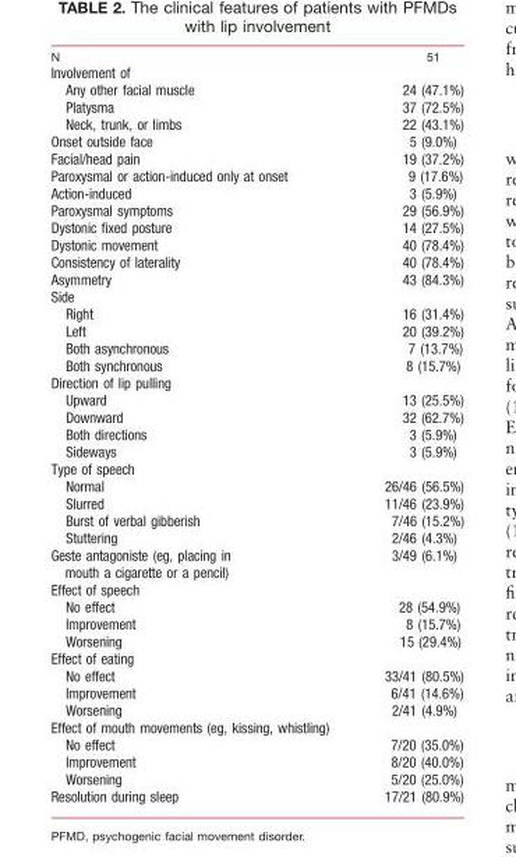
<table><thead><tr><td>N</td><td>51</td></tr></thead><tbody><tr><td colspan="2">Involvement of</td></tr><tr><td>Any other facial muscle</td><td>24 (47.1%)</td></tr><tr><td>Platysma</td><td>37 (72.5%)</td></tr><tr><td>Neck, trunk, or limbs</td><td>22 (43.1%)</td></tr><tr><td>Onset outside face</td><td>5 (9.0%)</td></tr><tr><td>Facial/head pain</td><td>19 (37.2%)</td></tr><tr><td>Paroxysmal or action-induced only at onset</td><td>9 (17.6%)</td></tr><tr><td>Action-induced</td><td>3 (5.9%)</td></tr><tr><td>Paroxysmal symptoms</td><td>29 (56.9%)</td></tr><tr><td>Dystonic fixed posture</td><td>14 (27.5%)</td></tr><tr><td>Dystonic movement</td><td>40 (78.4%)</td></tr><tr><td>Consistency of laterality</td><td>40 (78.4%)</td></tr><tr><td>Asymmetry</td><td>43 (84.3%)</td></tr><tr><td colspan="2">Side</td></tr><tr><td>Right</td><td>16 (31.4%)</td></tr><tr><td>Left</td><td>20 (39.2%)</td></tr><tr><td>Both asynchronous</td><td>7 (13.7%)</td></tr><tr><td>Both synchronous</td><td>8 (15.7%)</td></tr><tr><td colspan="2">Direction of lip pulling</td></tr><tr><td>Upward</td><td>13 (25.5%)</td></tr><tr><td>Downward</td><td>32 (62.7%)</td></tr><tr><td>Both directions</td><td>3 (5.9%)</td></tr><tr><td>Sideways</td><td>3 (5.9%)</td></tr><tr><td colspan="2">Type of speech</td></tr><tr><td>Normal</td><td>26/46 (56.5%)</td></tr><tr><td>Slurred</td><td>11/46 (23.9%)</td></tr><tr><td>Burst of verbal gibberish</td><td>7/46 (15.2%)</td></tr><tr><td>Stuttering</td><td>2/46 (4.3%)</td></tr><tr><td>Geste antagoniste (eg, placing in mouth a cigarette or a pencil)</td><td>3/49 (6.1%)</td></tr><tr><td colspan="2">Effect of speech</td></tr><tr><td>No effect</td><td>28 (54.9%)</td></tr><tr><td>Improvement</td><td>8 (15.7%)</td></tr><tr><td>Worsening</td><td>15 (29.4%)</td></tr><tr><td colspan="2">Effect of eating</td></tr><tr><td>No effect</td><td>33/41 (80.5%)</td></tr><tr><td>Improvement</td><td>6/41 (14.6%)</td></tr><tr><td>Worsening</td><td>2/41 (4.9%)</td></tr><tr><td colspan="2">Effect of mouth movements (eg, kissing, whistling)</td></tr><tr><td>No effect</td><td>7/20 (35.0%)</td></tr><tr><td>Improvement</td><td>8/20 (40.0%)</td></tr><tr><td>Worsening</td><td>5/20 (25.0%)</td></tr><tr><td>Resolution during sleep</td><td>17/21 (80.9%)</td></tr></tbody></table>